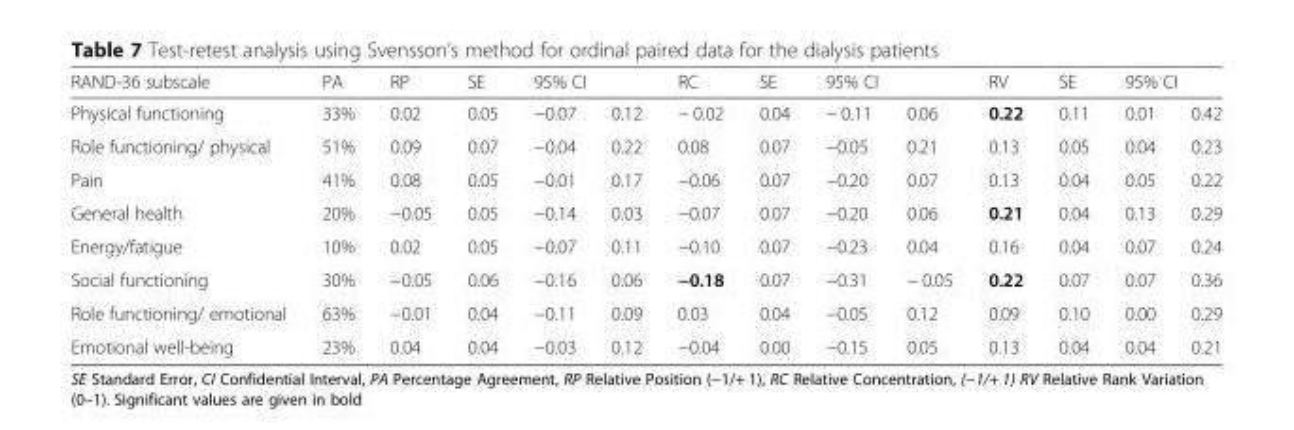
<table><thead><tr><td rowspan="2">RAND-36 subscale Physical functioning</td><td rowspan="2">PA 33%</td><td rowspan="2">RP 0.02</td><td rowspan="2">SE 0.05</td><td colspan="2">95% CI</td><td rowspan="2">RC − 0.02</td><td rowspan="2">SE 0.04</td><td colspan="2">95% CI</td><td rowspan="2">RV 0.22</td><td rowspan="2">SE 0.11</td><td colspan="2">95% CI</td></tr><tr><td>−0.07</td><td>0.12</td><td>− 0.11</td><td>0.06</td><td>0.01</td><td>0.42</td></tr></thead><tbody><tr><td>Role functioning/ physical</td><td>51%</td><td>0.09</td><td>0.07</td><td>−0.04</td><td>0.22</td><td>0.08</td><td>0.07</td><td>−0.05</td><td>0.21</td><td>0.13</td><td>0.05</td><td>0.04</td><td>0.23</td></tr><tr><td>Pain</td><td>41%</td><td>0.08</td><td>0.05</td><td>−0.01</td><td>0.17</td><td>−0.06</td><td>0.07</td><td>−0.20</td><td>0.07</td><td>0.13</td><td>0.04</td><td>0.05</td><td>0.22</td></tr><tr><td>General health</td><td>20%</td><td>−0.05</td><td>0.05</td><td>−0.14</td><td>0.03</td><td>−0.07</td><td>0.07</td><td>−0.20</td><td>0.06</td><td>0.21</td><td>0.04</td><td>0.13</td><td>0.29</td></tr><tr><td>Energy/fatigue</td><td>10%</td><td>0.02</td><td>0.05</td><td>−0.07</td><td>0.11</td><td>−0.10</td><td>0.07</td><td>−0.23</td><td>0.04</td><td>0.16</td><td>0.04</td><td>0.07</td><td>0.24</td></tr><tr><td>Social functioning</td><td>30%</td><td>−0.05</td><td>0.06</td><td>−0.16</td><td>0.06</td><td>−0.18</td><td>0.07</td><td>−0.31</td><td>− 0.05</td><td>0.22</td><td>0.07</td><td>0.07</td><td>0.36</td></tr><tr><td>Role functioning/ emotional</td><td>63%</td><td>−0.01</td><td>0.04</td><td>−0.11</td><td>0.09</td><td>0.03</td><td>0.04</td><td>−0.05</td><td>0.12</td><td>0.09</td><td>0.10</td><td>0.00</td><td>0.29</td></tr><tr><td>Emotional well-being</td><td>23%</td><td>0.04</td><td>0.04</td><td>−0.03</td><td>0.12</td><td>−0.04</td><td>0.00</td><td>−0.15</td><td>0.05</td><td>0.13</td><td>0.04</td><td>0.04</td><td>0.21</td></tr></tbody></table>